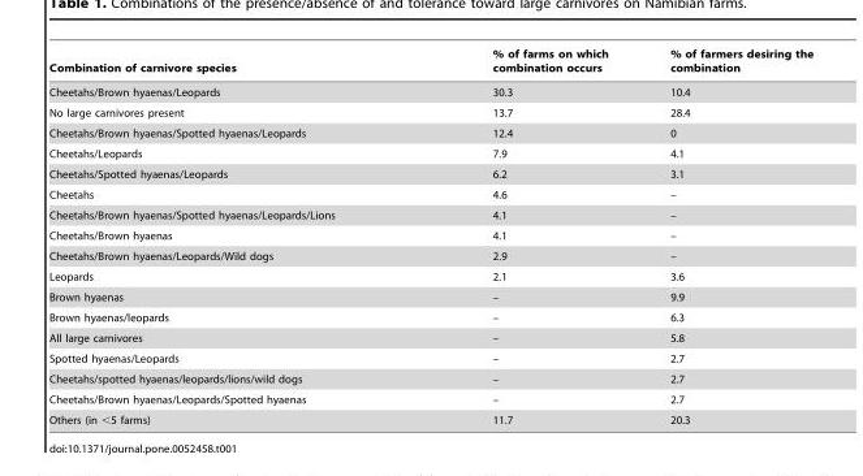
<table><thead><tr><td>Combination of carnivore species</td><td>% of farms on which combination occurs</td><td>% of farmers desiring the combination</td></tr></thead><tbody><tr><td>Cheetahs/Brown hyaenas/Leopards</td><td>30.3</td><td>10.4</td></tr><tr><td>No large carnivores present</td><td>13.7</td><td>28.4</td></tr><tr><td>Cheetahs/Brown hyaenas/Spotted hyaenas/Leopards</td><td>12.4</td><td>0</td></tr><tr><td>Cheetahs/Leopards</td><td>7.9</td><td>4.1</td></tr><tr><td>Cheetahs/Spotted hyaenas/Leopards</td><td>6.2</td><td>3.1</td></tr><tr><td>Cheetahs</td><td>4.6</td><td>–</td></tr><tr><td>Cheetahs/Brown hyaenas/Spotted hyaenas/Leopards/Lions</td><td>4.1</td><td>–</td></tr><tr><td>Cheetahs/Brown hyaenas</td><td>4.1</td><td>–</td></tr><tr><td>Cheetahs/Brown hyaenas/Leopards/Wild dogs</td><td>2.9</td><td>–</td></tr><tr><td>Leopards</td><td>2.1</td><td>3.6</td></tr><tr><td>Brown hyaenas</td><td>–</td><td>9.9</td></tr><tr><td>Brown hyaenas/leopards</td><td>–</td><td>6.3</td></tr><tr><td>All large carnivores</td><td>–</td><td>5.8</td></tr><tr><td>Spotted hyaenas/Leopards</td><td>–</td><td>2.7</td></tr><tr><td>Cheetahs/spotted hyaenas/leopards/lions/wild dogs</td><td>–</td><td>2.7</td></tr><tr><td>Cheetahs/Brown hyaenas/Leopards/Spotted hyaenas</td><td>–</td><td>2.7</td></tr><tr><td>Others (in &lt;5 farms)</td><td>11.7</td><td>20.3</td></tr></tbody></table>